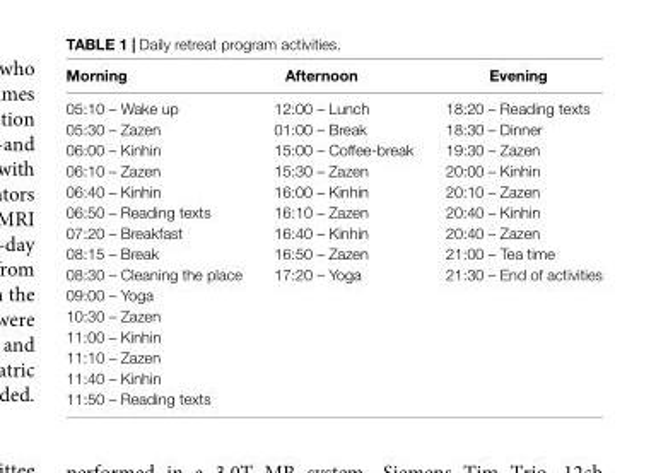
<table><thead><tr><td>Morning</td><td>Afternoon</td><td>Evening</td></tr></thead><tbody><tr><td>05:10 – Wake up</td><td>12:00 – Lunch</td><td>18:20 – Reading texts</td></tr><tr><td>05:30 – Zazen</td><td>01:00 – Break</td><td>18:30 – Dinner</td></tr><tr><td>06:00 – Kinhin</td><td>15:00 – Coffee-break</td><td>19:30 – Zazen</td></tr><tr><td>06:10 – Zazen</td><td>15:30 – Zazen</td><td>20:00 – Kinhin</td></tr><tr><td>06:40 – Kinhin</td><td>16:00 – Kinhin</td><td>20:10 – Zazen</td></tr><tr><td>06:50 – Reading texts</td><td>16:10 – Zazen</td><td>20:40 – Kinhin</td></tr><tr><td>07:20 – Breakfast</td><td>16:40 – Kinhin</td><td>20:40 – Zazen</td></tr><tr><td>08:15 – Break</td><td>16:50 – Zazen</td><td>21:00 – Tea time</td></tr><tr><td>08:30 – Cleaning the place</td><td>17:20 – Yoga</td><td>21:30 – End of activities</td></tr><tr><td colspan="3">09:00 – Yoga</td></tr><tr><td colspan="3">10:30 – Zazen</td></tr><tr><td colspan="3">11:00 – Kinhin</td></tr><tr><td colspan="3">11:10 – Zazen</td></tr><tr><td colspan="3">11:40 – Kinhin</td></tr><tr><td>11:50 – Reading texts</td><td></td><td></td></tr></tbody></table>